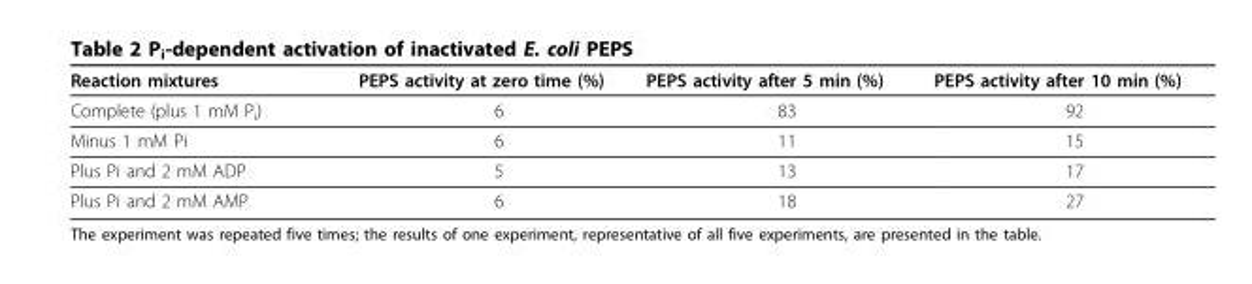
<table><thead><tr><td>Reaction mixtures</td><td>PEPS activity at zero time (%)</td><td>PEPS activity after 5 min (%)</td><td>PEPS activity after 10 min (%)</td></tr></thead><tbody><tr><td>Complete (plus 1 mM P<sub>i</sub>)</td><td>6</td><td>83</td><td>92</td></tr><tr><td>Minus 1 mM Pi</td><td>6</td><td>11</td><td>15</td></tr><tr><td>Plus Pi and 2 mM ADP</td><td>5</td><td>13</td><td>17</td></tr><tr><td>Plus Pi and 2 mM AMP</td><td>6</td><td>18</td><td>27</td></tr></tbody></table>